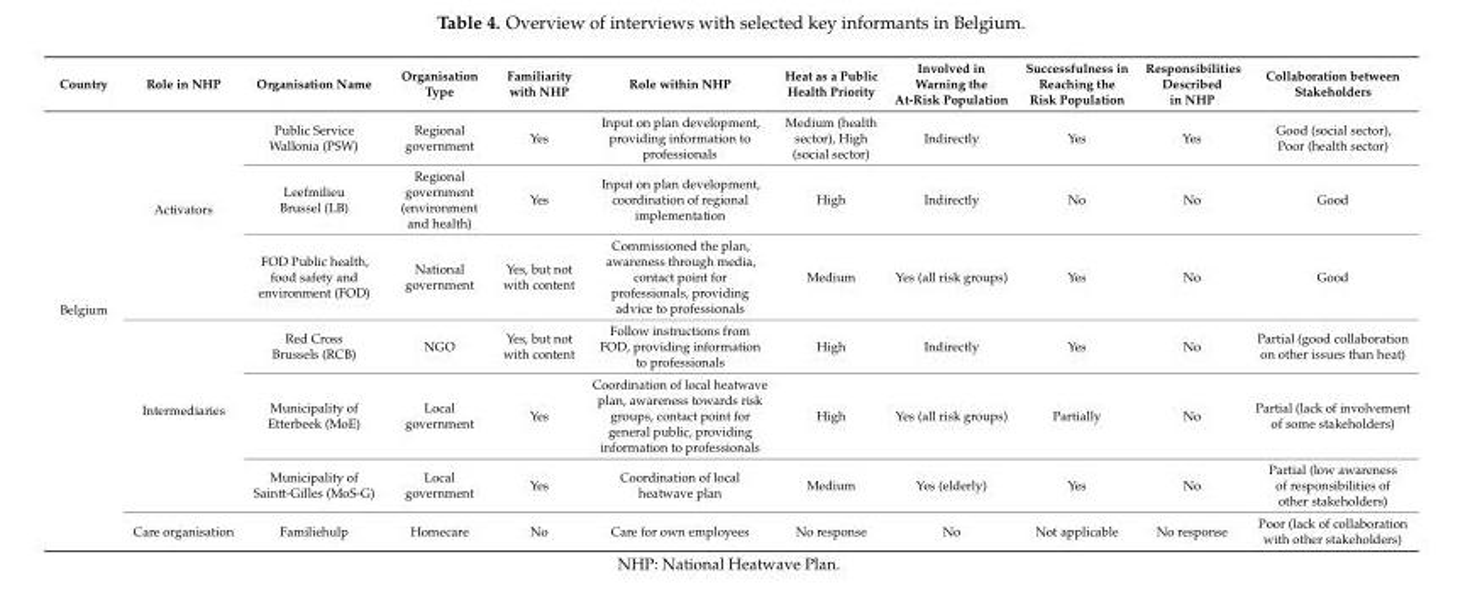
<table><thead><tr><td>Country</td><td>Role in NHP</td><td>Organisation Name</td><td>Organisation Type</td><td>Familiarity with NHP</td><td>Role within NHP</td><td>Heat as a Public Health Priority</td><td>Involved in Warning the At-Risk Population</td><td>Successfulness in Reaching the Risk Population</td><td>Responsibilities Described in NHP</td><td>Collaboration between Stakeholders</td></tr></thead><tbody><tr><td rowspan="7">Belgium</td><td rowspan="3">Activators</td><td>Public Service Wallonia (PSW)</td><td>Regional government</td><td>Yes</td><td>Input on plan development, providing information to professionals</td><td>Medium (health sector), High (social sector)</td><td>Indirectly</td><td>Yes</td><td>Yes</td><td>Good (social sector), Poor (health sector)</td></tr><tr><td>Leefmilieu Brussel (LB)</td><td>Regional government (environment and health)</td><td>Yes</td><td>Input on plan development, coordination of regional implementation</td><td>High</td><td>Indirectly</td><td>No</td><td>No</td><td>Good</td></tr><tr><td>FOD Public health, food safety and environment (FOD)</td><td>National government</td><td>Yes, but not with content</td><td>Commissioned the plan, awareness through media, contact point for professionals, providing advice to professionals</td><td>Medium</td><td>Yes (all risk groups)</td><td>Yes</td><td>No</td><td>Good</td></tr><tr><td rowspan="3">Intermediaries</td><td>Red Cross Brussels (RCB)</td><td>NGO</td><td>Yes, but not with content</td><td>Follow instructions from FOD, providing information to professionals</td><td>High</td><td>Indirectly</td><td>Yes</td><td>No</td><td>Partial (good collaboration on other issues than heat)</td></tr><tr><td>Municipality of Etterbeek (MoE)</td><td>Local government</td><td>Yes</td><td>Coordination of local heatwave plan, awareness towards risk groups, contact point for general public, providing information to professionals</td><td>High</td><td>Yes (all risk groups)</td><td>Partially</td><td>No</td><td>Partial (lack of involvement of some stakeholders)</td></tr><tr><td>Municipality of Saintt-Gilles (MoS-G)</td><td>Local government</td><td>Yes</td><td>Coordination of local heatwave plan</td><td>Medium</td><td>Yes (elderly)</td><td>Yes</td><td>No</td><td>Partial (low awareness of responsibilities of other stakeholders)</td></tr><tr><td>Care organisation</td><td>Familiehulp</td><td>Homecare</td><td>No</td><td>Care for own employees</td><td>No response</td><td>No</td><td>Not applicable</td><td>No response</td><td>Poor (lack of collaboration with other stakeholders)</td></tr></tbody></table>